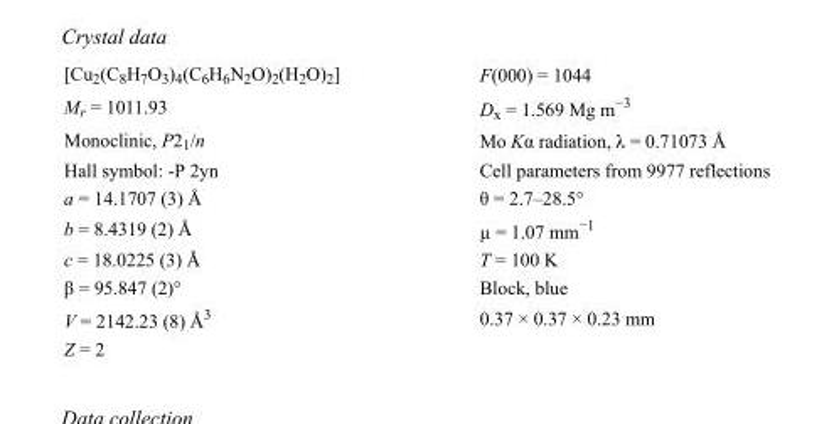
<table><tbody><tr><td>[Cu<sub>2</sub>(C<sub>8</sub>H<sub>7</sub>O<sub>3</sub>)<sub>4</sub>(C<sub>6</sub>H<sub>6</sub>N<sub>2</sub>O)<sub>2</sub>(H<sub>2</sub>O)<sub>2</sub>]</td><td>F(000) = 1044</td></tr><tr><td>M<sub>r</sub> = 1011.93</td><td>D<sub>x</sub> = 1.569 Mg m<sup>−3</sup></td></tr><tr><td>Monoclinic, P2<sub>1</sub>/n</td><td>Mo Kα radiation, λ = 0.71073 Å</td></tr><tr><td>Hall symbol: -P 2yn</td><td>Cell parameters from 9977 reflections</td></tr><tr><td>a = 14.1707 (3) Å</td><td>θ = 2.7–28.5°</td></tr><tr><td>b = 8.4319 (2) Å</td><td>µ = 1.07 mm<sup>−1</sup></td></tr><tr><td>c = 18.0225 (3) Å</td><td>T = 100 K</td></tr><tr><td>β = 95.847 (2)°</td><td>Block, blue</td></tr><tr><td>V = 2142.23 (8) Å<sup>3</sup></td><td>0.37 × 0.37 × 0.23 mm</td></tr><tr><td>Z = 2</td><td></td></tr></tbody></table>